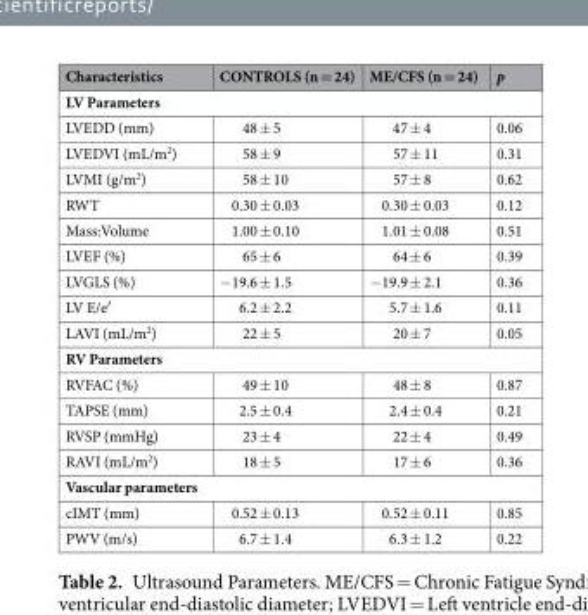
<table><thead><tr><td>Characteristics</td><td>CONTROLS (n = 24)</td><td>ME/CFS (n = 24)</td><td>p</td></tr></thead><tbody><tr><td colspan="4">LV Parameters</td></tr><tr><td>LVEDD (mm)</td><td>48 ± 5</td><td>47 ± 4</td><td>0.06</td></tr><tr><td>LVEDVI (mL/m<sup>2</sup>)</td><td>58 ± 9</td><td>57 ± 11</td><td>0.31</td></tr><tr><td>LVMI (g/m<sup>2</sup>)</td><td>58 ± 10</td><td>57 ± 8</td><td>0.62</td></tr><tr><td>RWT</td><td>0.30 ± 0.03</td><td>0.30 ± 0.03</td><td>0.12</td></tr><tr><td>Mass:Volume</td><td>1.00 ± 0.10</td><td>1.01 ± 0.08</td><td>0.51</td></tr><tr><td>LVEF (%)</td><td>65 ± 6</td><td>64 ± 6</td><td>0.39</td></tr><tr><td>LVGLS (%)</td><td>−19.6 ± 1.5</td><td>−19.9 ± 2.1</td><td>0.36</td></tr><tr><td>LV E/e′</td><td>6.2 ± 2.2</td><td>5.7 ± 1.6</td><td>0.11</td></tr><tr><td>LAVI (mL/m<sup>2</sup>)</td><td>22 ± 5</td><td>20 ± 7</td><td>0.05</td></tr><tr><td colspan="4">RV Parameters</td></tr><tr><td>RVFAC (%)</td><td>49 ± 10</td><td>48 ± 8</td><td>0.87</td></tr><tr><td>TAPSE (mm)</td><td>2.5 ± 0.4</td><td>2.4 ± 0.4</td><td>0.21</td></tr><tr><td>RVSP (mmHg)</td><td>23 ± 4</td><td>22 ± 4</td><td>0.49</td></tr><tr><td>RAVI (mL/m<sup>2</sup>)</td><td>18 ± 5</td><td>17 ± 6</td><td>0.36</td></tr><tr><td colspan="4">Vascular parameters</td></tr><tr><td>cIMT (mm)</td><td>0.52 ± 0.13</td><td>0.52 ± 0.11</td><td>0.85</td></tr><tr><td>PWV (m/s)</td><td>6.7 ± 1.4</td><td>6.3 ± 1.2</td><td>0.22</td></tr></tbody></table>